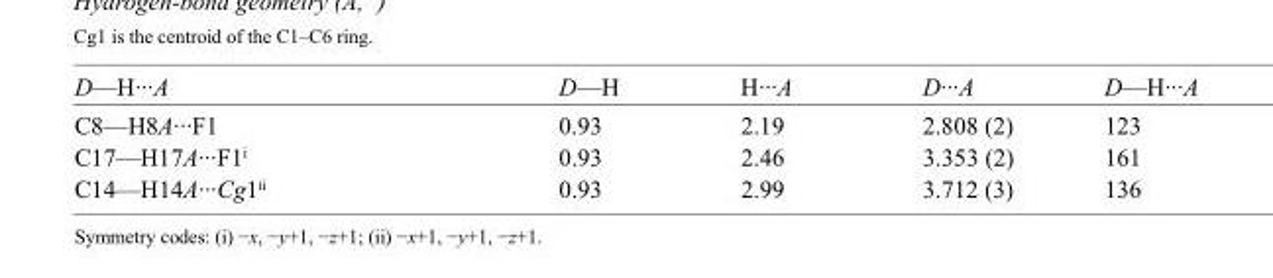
<table><tbody><tr><td>D—H···A</td><td>D—H</td><td>H···A</td><td>D···A</td><td>D—H···A</td></tr><tr><td>C8—H8A···F1</td><td>0.93</td><td>2.19</td><td>2.808 (2)</td><td>123</td></tr><tr><td>C17—H17A···F1<sup>i</sup></td><td>0.93</td><td>2.46</td><td>3.353 (2)</td><td>161</td></tr><tr><td>C14—H14A···Cg1<sup>ii</sup></td><td>0.93</td><td>2.99</td><td>3.712 (3)</td><td>136</td></tr></tbody></table>